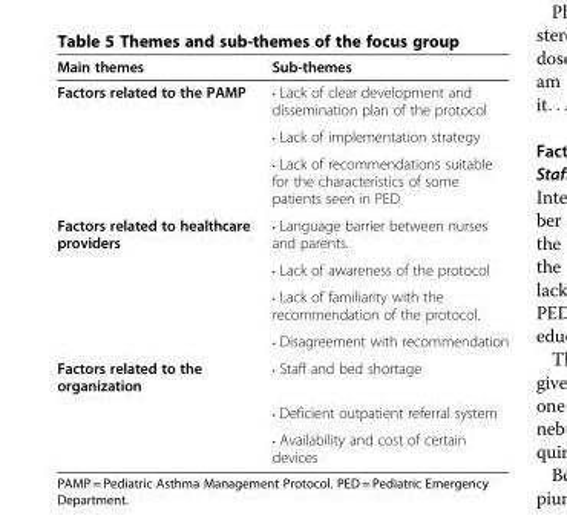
<table><thead><tr><td>Main themes</td><td>Sub-themes</td></tr></thead><tbody><tr><td rowspan="3">Factors related to the PAMP</td><td>• Lack of clear development and dissemination plan of the protocol</td></tr><tr><td>• Lack of implementation strategy</td></tr><tr><td>• Lack of recommendations suitable for the characteristics of some patients seen in PED</td></tr><tr><td rowspan="4">Factors related to healthcare providers</td><td>• Language barrier between nurses and parents.</td></tr><tr><td>• Lack of awareness of the protocol</td></tr><tr><td>• Lack of familiarity with the recommendation of the protocol.</td></tr><tr><td>• Disagreement with recommendation</td></tr><tr><td rowspan="3">Factors related to the organization</td><td>• Staff and bed shortage</td></tr><tr><td>• Deficient outpatient referral system</td></tr><tr><td>• Availability and cost of certain devices</td></tr></tbody></table>